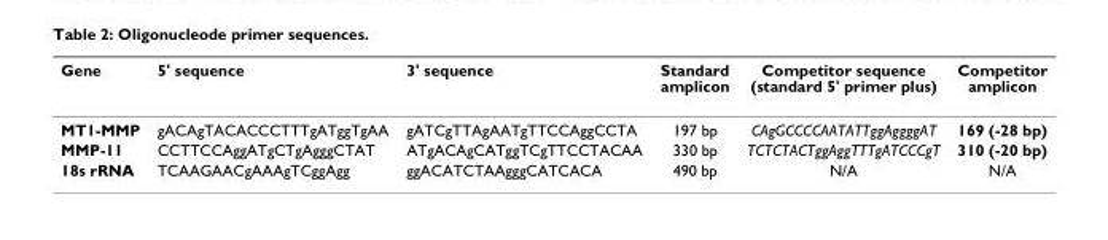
<table><thead><tr><td>Gene</td><td>5&#x27; sequence</td><td>3&#x27; sequence</td><td>Standard amplicon</td><td>Competitor sequence (standard 5&#x27; primer plus)</td><td>Competitor amplicon</td></tr></thead><tbody><tr><td>MT1-MMP</td><td>gACAgTACACCCTTTgATggTgAA</td><td>gATCgTTAgAATgTTCCAggCCTA</td><td>197 bp</td><td>CAgGCCCCAATATTggAggggAT</td><td>169 (-28 bp)</td></tr><tr><td>MMP-11</td><td>CCTTCCAggATgCTgAgggCTAT</td><td>ATgACAgCATggTCgTTCCTACAA</td><td>330 bp</td><td>TCTCTACTggAggTTTgATCCCgT</td><td>310 (-20 bp)</td></tr><tr><td>18s rRNA</td><td>TCAAGAACgAAAgTCggAgg</td><td>ggACATCTAAgggCATCACA</td><td>490 bp</td><td>N/A</td><td>N/A</td></tr></tbody></table>